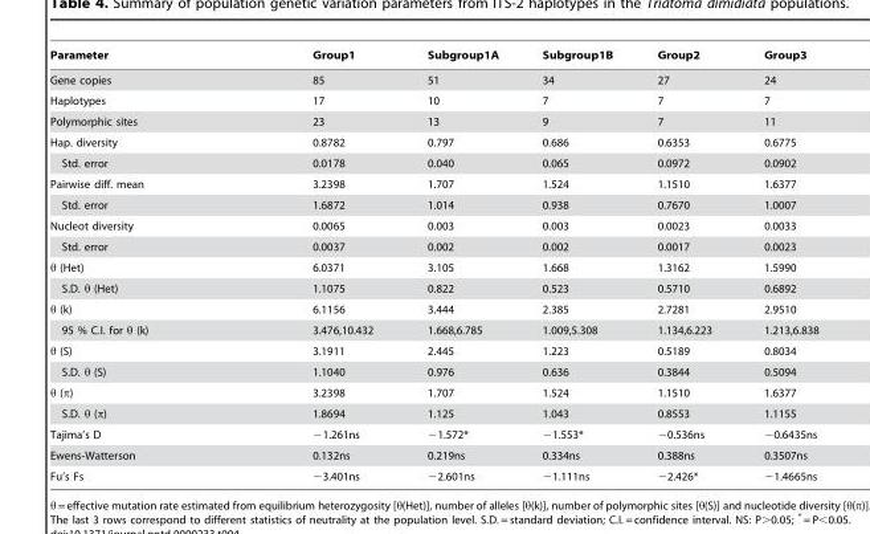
<table><thead><tr><td>Parameter</td><td>Group1</td><td>Subgroup1A</td><td>Subgroup1B</td><td>Group2</td><td>Group3</td></tr></thead><tbody><tr><td>Gene copies</td><td>85</td><td>51</td><td>34</td><td>27</td><td>24</td></tr><tr><td>Haplotypes</td><td>17</td><td>10</td><td>7</td><td>7</td><td>7</td></tr><tr><td>Polymorphic sites</td><td>23</td><td>13</td><td>9</td><td>7</td><td>11</td></tr><tr><td>Hap. diversity</td><td>0.8782</td><td>0.797</td><td>0.686</td><td>0.6353</td><td>0.6775</td></tr><tr><td>Std. error</td><td>0.0178</td><td>0.040</td><td>0.065</td><td>0.0972</td><td>0.0902</td></tr><tr><td>Pairwise diff. mean</td><td>3.2398</td><td>1.707</td><td>1.524</td><td>1.1510</td><td>1.6377</td></tr><tr><td>Std. error</td><td>1.6872</td><td>1.014</td><td>0.938</td><td>0.7670</td><td>1.0007</td></tr><tr><td>Nucleot diversity</td><td>0.0065</td><td>0.003</td><td>0.003</td><td>0.0023</td><td>0.0033</td></tr><tr><td>Std. error</td><td>0.0037</td><td>0.002</td><td>0.002</td><td>0.0017</td><td>0.0023</td></tr><tr><td>θ (Het)</td><td>6.0371</td><td>3.105</td><td>1.668</td><td>1.3162</td><td>1.5990</td></tr><tr><td>S.D. θ (Het)</td><td>1.1075</td><td>0.822</td><td>0.523</td><td>0.5710</td><td>0.6892</td></tr><tr><td>θ (k)</td><td>6.1156</td><td>3.444</td><td>2.385</td><td>2.7281</td><td>2.9510</td></tr><tr><td>95 % C.I. for θ (k)</td><td>3.476,10.432</td><td>1.668,6.785</td><td>1.009,5.308</td><td>1.134,6.223</td><td>1.213,6.838</td></tr><tr><td>θ (S)</td><td>3.1911</td><td>2.445</td><td>1.223</td><td>0.5189</td><td>0.8034</td></tr><tr><td>S.D. θ (S)</td><td>1.1040</td><td>0.976</td><td>0.636</td><td>0.3844</td><td>0.5094</td></tr><tr><td>θ (π)</td><td>3.2398</td><td>1.707</td><td>1.524</td><td>1.1510</td><td>1.6377</td></tr><tr><td>S.D. θ (π)</td><td>1.8694</td><td>1.125</td><td>1.043</td><td>0.8553</td><td>1.1155</td></tr><tr><td>Tajima’s D</td><td>−1.261ns</td><td>−1.572*</td><td>−1.553*</td><td>−0.536ns</td><td>−0.6435ns</td></tr><tr><td>Ewens-Watterson</td><td>0.132ns</td><td>0.219ns</td><td>0.334ns</td><td>0.388ns</td><td>0.3507ns</td></tr><tr><td>Fu’s Fs</td><td>−3.401ns</td><td>−2.601ns</td><td>−1.111ns</td><td>−2.426*</td><td>−1.4665ns</td></tr></tbody></table>